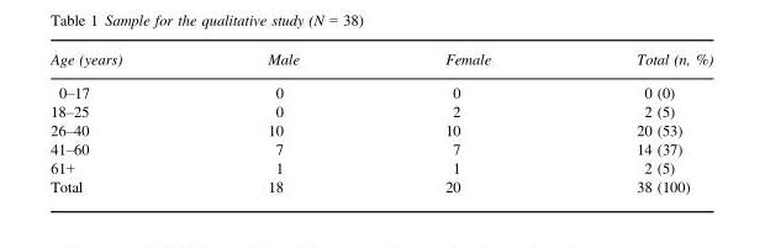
<table><thead><tr><td>Age (years)</td><td>Male</td><td>Female</td><td>Total (n, %)</td></tr></thead><tbody><tr><td>0–17</td><td>0</td><td>0</td><td>0 (0)</td></tr><tr><td>18–25</td><td>0</td><td>2</td><td>2 (5)</td></tr><tr><td>26–40</td><td>10</td><td>10</td><td>20 (53)</td></tr><tr><td>41–60</td><td>7</td><td>7</td><td>14 (37)</td></tr><tr><td>61+</td><td>1</td><td>1</td><td>2 (5)</td></tr><tr><td>Total</td><td>18</td><td>20</td><td>38 (100)</td></tr></tbody></table>